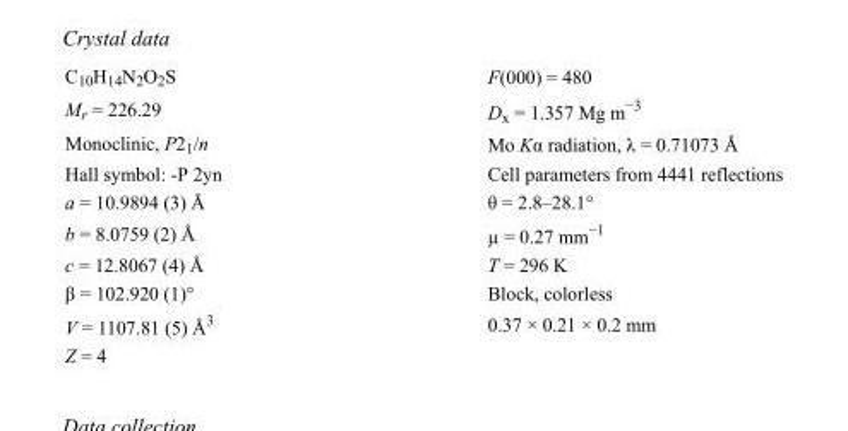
<table><tbody><tr><td>C<sub>10</sub>H<sub>14</sub>N<sub>2</sub>O<sub>2</sub>S</td><td>F(000) = 480</td></tr><tr><td>M<sub>r</sub> = 226.29</td><td>D<sub>x</sub> = 1.357 Mg m<sup>−3</sup></td></tr><tr><td>Monoclinic, P2<sub>1</sub>/n</td><td>Mo Kα radiation, λ = 0.71073 Å</td></tr><tr><td>Hall symbol: -P 2yn</td><td>Cell parameters from 4441 reflections</td></tr><tr><td>a = 10.9894 (3) Å</td><td>θ = 2.8–28.1°</td></tr><tr><td>b = 8.0759 (2) Å</td><td>µ = 0.27 mm<sup>−1</sup></td></tr><tr><td>c = 12.8067 (4) Å</td><td>T = 296 K</td></tr><tr><td>β = 102.920 (1)°</td><td>Block, colorless</td></tr><tr><td>V = 1107.81 (5) Å<sup>3</sup></td><td>0.37 × 0.21 × 0.2 mm</td></tr><tr><td>Z = 4</td><td></td></tr></tbody></table>